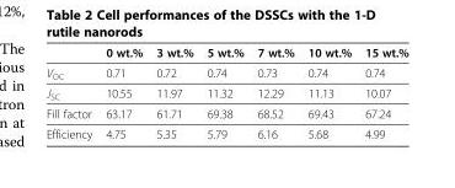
<table><thead><tr><td></td><td>0 wt.%</td><td>3 wt.%</td><td>5 wt.%</td><td>7 wt.%</td><td>10 wt.%</td><td>15 wt.%</td></tr></thead><tbody><tr><td>V<sub>OC</sub></td><td>0.71</td><td>0.72</td><td>0.74</td><td>0.73</td><td>0.74</td><td>0.74</td></tr><tr><td>J<sub>SC</sub></td><td>10.55</td><td>11.97</td><td>11.32</td><td>12.29</td><td>11.13</td><td>10.07</td></tr><tr><td>Fill factor</td><td>63.17</td><td>61.71</td><td>69.38</td><td>68.52</td><td>69.43</td><td>67.24</td></tr><tr><td>Efficiency</td><td>4.75</td><td>5.35</td><td>5.79</td><td>6.16</td><td>5.68</td><td>4.99</td></tr></tbody></table>